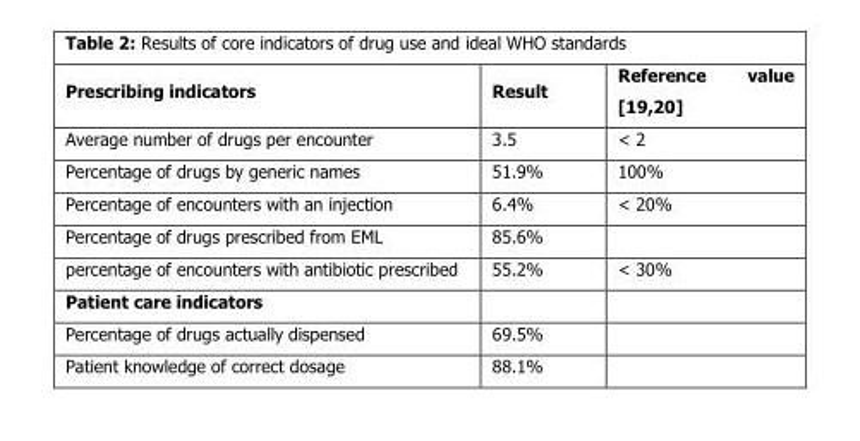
<table><thead><tr><td>Prescribing indicators</td><td>Result</td><td>Reference value [19,20]</td></tr></thead><tbody><tr><td>Average number of drugs per encounter</td><td>3.5</td><td>&lt; 2</td></tr><tr><td>Percentage of drugs by generic names</td><td>51.9%</td><td>100%</td></tr><tr><td>Percentage of encounters with an injection</td><td>6.4%</td><td>&lt; 20%</td></tr><tr><td>Percentage of drugs prescribed from EML</td><td>85.6%</td><td></td></tr><tr><td>percentage of encounters with antibiotic prescribed</td><td>55.2%</td><td>&lt; 30%</td></tr><tr><td colspan="3">Patient care indicators</td></tr><tr><td>Percentage of drugs actually dispensed</td><td>69.5%</td><td></td></tr><tr><td>Patient knowledge of correct dosage</td><td>88.1%</td><td></td></tr></tbody></table>